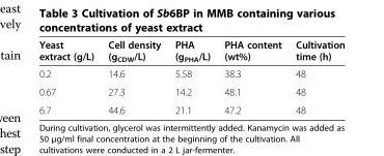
<table><thead><tr><td>Yeast extract (g/L)</td><td>Cell density (g<sub>CDW</sub>/L)</td><td>PHA (g<sub>PHA</sub>/L)</td><td>PHA content (wt%)</td><td>Cultivation time (h)</td></tr></thead><tbody><tr><td>0.2</td><td>14.6</td><td>5.58</td><td>38.3</td><td>48</td></tr><tr><td>0.67</td><td>27.3</td><td>14.2</td><td>48.1</td><td>48</td></tr><tr><td>6.7</td><td>44.6</td><td>21.1</td><td>47.2</td><td>48</td></tr></tbody></table>